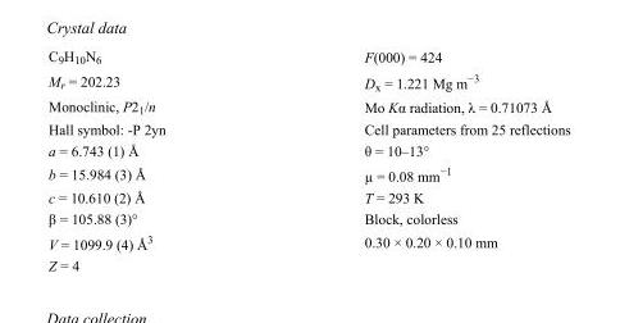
<table><tbody><tr><td>C<sub>9</sub>H<sub>10</sub>N<sub>6</sub></td><td>F(000) = 424</td></tr><tr><td>M<sub>r</sub> = 202.23</td><td>D<sub>x</sub> = 1.221 Mg m<sup>−3</sup></td></tr><tr><td>Monoclinic, P2<sub>1</sub>/n</td><td>Mo Kα radiation, λ = 0.71073 Å</td></tr><tr><td>Hall symbol: -P 2yn</td><td>Cell parameters from 25 reflections</td></tr><tr><td>a = 6.743 (1) Å</td><td>θ = 10–13°</td></tr><tr><td>b = 15.984 (3) Å</td><td>µ = 0.08 mm<sup>−1</sup></td></tr><tr><td>c = 10.610 (2) Å</td><td>T = 293 K</td></tr><tr><td>β = 105.88 (3)°</td><td>Block, colorless</td></tr><tr><td>V = 1099.9 (4) Å<sup>3</sup></td><td>0.30 × 0.20 × 0.10 mm</td></tr><tr><td>Z = 4</td><td></td></tr></tbody></table>